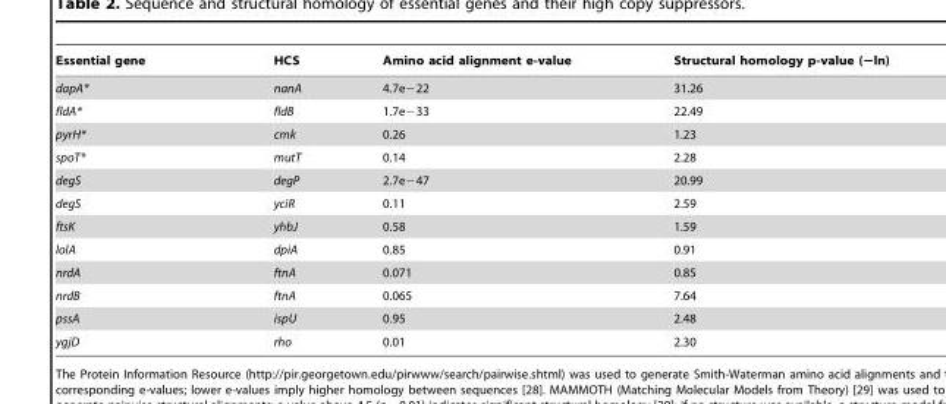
<table><thead><tr><td>Essential gene</td><td>HCS</td><td>Amino acid alignment e-value</td><td>Structural homology p-value (−ln)</td></tr></thead><tbody><tr><td>dapA*</td><td>nanA</td><td>4.7e−22</td><td>31.26</td></tr><tr><td>fldA*</td><td>fldB</td><td>1.7e−33</td><td>22.49</td></tr><tr><td>pyrH*</td><td>cmk</td><td>0.26</td><td>1.23</td></tr><tr><td>spoT*</td><td>mutT</td><td>0.14</td><td>2.28</td></tr><tr><td>degS</td><td>degP</td><td>2.7e−47</td><td>20.99</td></tr><tr><td>degS</td><td>yciR</td><td>0.11</td><td>2.59</td></tr><tr><td>ftsK</td><td>yhbJ</td><td>0.58</td><td>1.59</td></tr><tr><td>lolA</td><td>dpiA</td><td>0.85</td><td>0.91</td></tr><tr><td>nrdA</td><td>ftnA</td><td>0.071</td><td>0.85</td></tr><tr><td>nrdB</td><td>ftnA</td><td>0.065</td><td>7.64</td></tr><tr><td>pssA</td><td>ispU</td><td>0.95</td><td>2.48</td></tr><tr><td>ygjD</td><td>rho</td><td>0.01</td><td>2.30</td></tr></tbody></table>